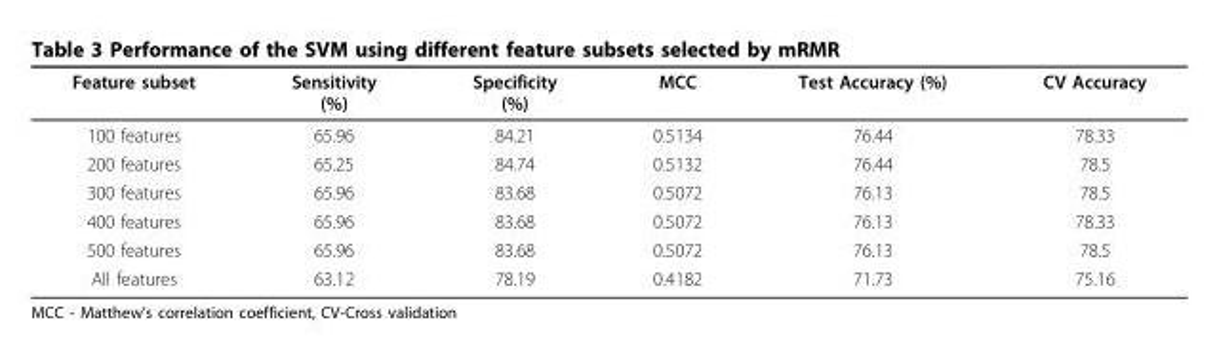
<table><thead><tr><td>Feature subset</td><td>Sensitivity (%)</td><td>Specificity (%)</td><td>MCC</td><td>Test Accuracy (%)</td><td>CV Accuracy</td></tr></thead><tbody><tr><td>100 features</td><td>65.96</td><td>84.21</td><td>0.5134</td><td>76.44</td><td>78.33</td></tr><tr><td>200 features</td><td>65.25</td><td>84.74</td><td>0.5132</td><td>76.44</td><td>78.5</td></tr><tr><td>300 features</td><td>65.96</td><td>83.68</td><td>0.5072</td><td>76.13</td><td>78.5</td></tr><tr><td>400 features</td><td>65.96</td><td>83.68</td><td>0.5072</td><td>76.13</td><td>78.33</td></tr><tr><td>500 features</td><td>65.96</td><td>83.68</td><td>0.5072</td><td>76.13</td><td>78.5</td></tr><tr><td>All features</td><td>63.12</td><td>78.19</td><td>0.4182</td><td>71.73</td><td>75.16</td></tr></tbody></table>